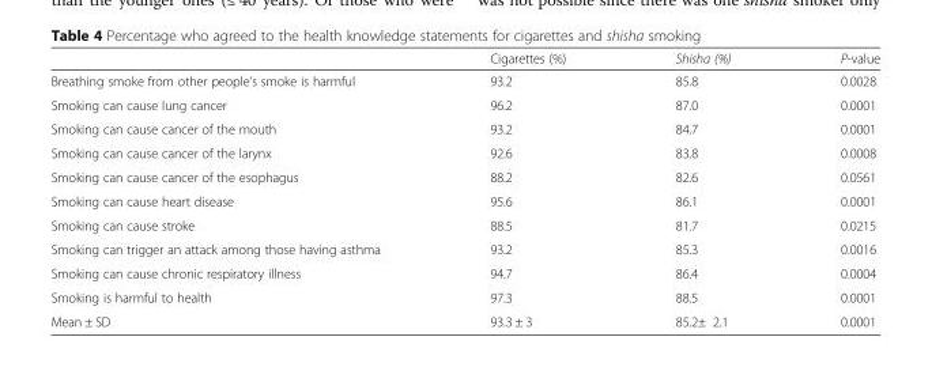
<table><thead><tr><td></td><td>Cigarettes (%)</td><td>Shisha (%)</td><td>P-value</td></tr></thead><tbody><tr><td>Breathing smoke from other people’s smoke is harmful</td><td>93.2</td><td>85.8</td><td>0.0028</td></tr><tr><td>Smoking can cause lung cancer</td><td>96.2</td><td>87.0</td><td>0.0001</td></tr><tr><td>Smoking can cause cancer of the mouth</td><td>93.2</td><td>84.7</td><td>0.0001</td></tr><tr><td>Smoking can cause cancer of the larynx</td><td>92.6</td><td>83.8</td><td>0.0008</td></tr><tr><td>Smoking can cause cancer of the esophagus</td><td>88.2</td><td>82.6</td><td>0.0561</td></tr><tr><td>Smoking can cause heart disease</td><td>95.6</td><td>86.1</td><td>0.0001</td></tr><tr><td>Smoking can cause stroke</td><td>88.5</td><td>81.7</td><td>0.0215</td></tr><tr><td>Smoking can trigger an attack among those having asthma</td><td>93.2</td><td>85.3</td><td>0.0016</td></tr><tr><td>Smoking can cause chronic respiratory illness</td><td>94.7</td><td>86.4</td><td>0.0004</td></tr><tr><td>Smoking is harmful to health</td><td>97.3</td><td>88.5</td><td>0.0001</td></tr><tr><td>Mean ± SD</td><td>93.3 ± 3</td><td>85.2± 2.1</td><td>0.0001</td></tr></tbody></table>